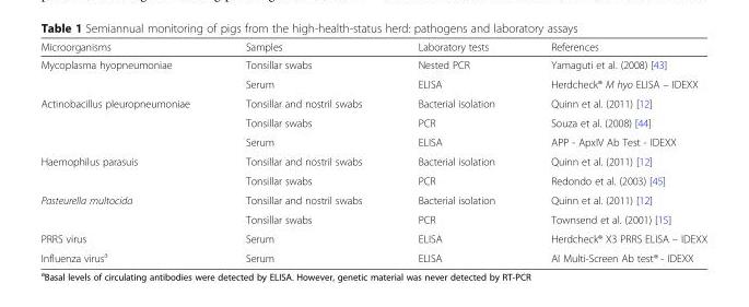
<table><thead><tr><td>Microorganisms</td><td>Samples</td><td>Laboratory tests</td><td>References</td></tr></thead><tbody><tr><td rowspan="2">Mycoplasma hyopneumoniae</td><td>Tonsillar swabs</td><td>Nested PCR</td><td>Yamaguti et al. (2008) [43]</td></tr><tr><td>Serum</td><td>ELISA</td><td>Herdcheck® M hyo ELISA – IDEXX</td></tr><tr><td rowspan="3">Actinobacillus pleuropneumoniae</td><td>Tonsillar and nostril swabs</td><td>Bacterial isolation</td><td>Quinn et al. (2011) [12]</td></tr><tr><td>Tonsillar swabs</td><td>PCR</td><td>Souza et al. (2008) [44]</td></tr><tr><td>Serum</td><td>ELISA</td><td>APP - ApxIV Ab Test - IDEXX</td></tr><tr><td rowspan="2">Haemophilus parasuis</td><td>Tonsillar and nostril swabs</td><td>Bacterial isolation</td><td>Quinn et al. (2011) [12]</td></tr><tr><td>Tonsillar swabs</td><td>PCR</td><td>Redondo et al. (2003) [45]</td></tr><tr><td rowspan="2">Pasteurella multocida</td><td>Tonsillar and nostril swabs</td><td>Bacterial isolation</td><td>Quinn et al. (2011) [12]</td></tr><tr><td>Tonsillar swabs</td><td>PCR</td><td>Townsend et al. (2001) [15]</td></tr><tr><td>PRRS virus</td><td>Serum</td><td>ELISA</td><td>Herdcheck® X3 PRRS ELISA – IDEXX</td></tr><tr><td>Influenza virus<sup>a</sup></td><td>Serum</td><td>ELISA</td><td>AI Multi-Screen Ab test® - IDEXX</td></tr></tbody></table>